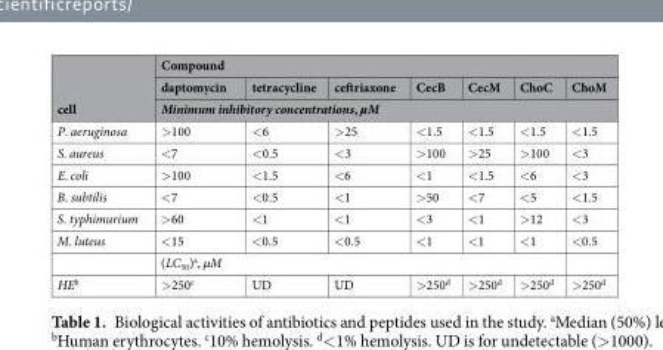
<table><thead><tr><td rowspan="3">cell</td><td colspan="7">Compound</td></tr><tr><td>daptomycin</td><td>tetracycline</td><td>ceftriaxone</td><td>CecB</td><td>CecM</td><td>ChoC</td><td>ChoM</td></tr><tr><td colspan="7">Minimum inhibitory concentrations, µM</td></tr></thead><tbody><tr><td>P. aeruginosa</td><td>&gt;100</td><td>&lt;6</td><td>&gt;25</td><td>&lt;1.5</td><td>&lt;1.5</td><td>&lt;1.5</td><td>&lt;1.5</td></tr><tr><td>S. aureus</td><td>&lt;7</td><td>&lt;0.5</td><td>&lt;3</td><td>&gt;100</td><td>&gt;25</td><td>&gt;100</td><td>&lt;3</td></tr><tr><td>E. coli</td><td>&gt;100</td><td>&lt;1.5</td><td>&lt;6</td><td>&lt;1</td><td>&lt;1.5</td><td>&lt;6</td><td>&lt;3</td></tr><tr><td>B. subtilis</td><td>&lt;7</td><td>&lt;0.5</td><td>&lt;1</td><td>&gt;50</td><td>&lt;7</td><td>&lt;5</td><td>&lt;1.5</td></tr><tr><td>S. typhimurium</td><td>&gt;60</td><td>&lt;1</td><td>&lt;1</td><td>&lt;3</td><td>&lt;1</td><td>&gt;12</td><td>&lt;3</td></tr><tr><td rowspan="2">M. luteus</td><td>&lt;15</td><td>&lt;0.5</td><td>&lt;0.5</td><td>&lt;1</td><td>&lt;1</td><td>&lt;1</td><td>&lt;0.5</td></tr><tr><td colspan="6">(LC<sub>50</sub>)<sup>a</sup>, µM</td><td></td></tr><tr><td>HE<sup>b</sup></td><td>&gt;250<sup>c</sup></td><td>UD</td><td>UD</td><td>&gt;250<sup>d</sup></td><td>&gt;250<sup>d</sup></td><td>&gt;250<sup>d</sup></td><td>&gt;250<sup>d</sup></td></tr></tbody></table>